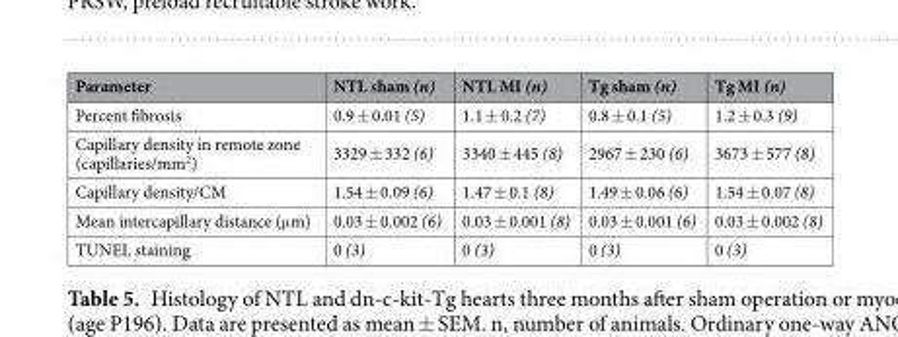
<table><thead><tr><td>Parameter</td><td>NTL sham (n)</td><td>NTL MI (n)</td><td>Tg sham (n)</td><td>Tg MI (n)</td></tr></thead><tbody><tr><td>Percent fibrosis</td><td>0.9 ± 0.01 (5)</td><td>1.1 ± 0.2 (7)</td><td>0.8 ± 0.1 (5)</td><td>1.2 ± 0.3 (9)</td></tr><tr><td>Capillary density in remote zone (capillaries/mm<sup>2</sup>)</td><td>3329 ± 332 (6)</td><td>3340 ± 445 (8)</td><td>2967 ± 230 (6)</td><td>3673 ± 577 (8)</td></tr><tr><td>Capillary density/CM</td><td>1.54 ± 0.09 (6)</td><td>1.47 ± 0.1 (8)</td><td>1.49 ± 0.06 (6)</td><td>1.54 ± 0.07 (8)</td></tr><tr><td>Mean intercapillary distance (μm)</td><td>0.03 ± 0.002 (6)</td><td>0.03 ± 0.001 (8)</td><td>0.03 ± 0.001 (6)</td><td>0.03 ± 0.002 (8)</td></tr><tr><td>TUNEL staining</td><td>0 (3)</td><td>0 (3)</td><td>0 (3)</td><td>0 (3)</td></tr></tbody></table>